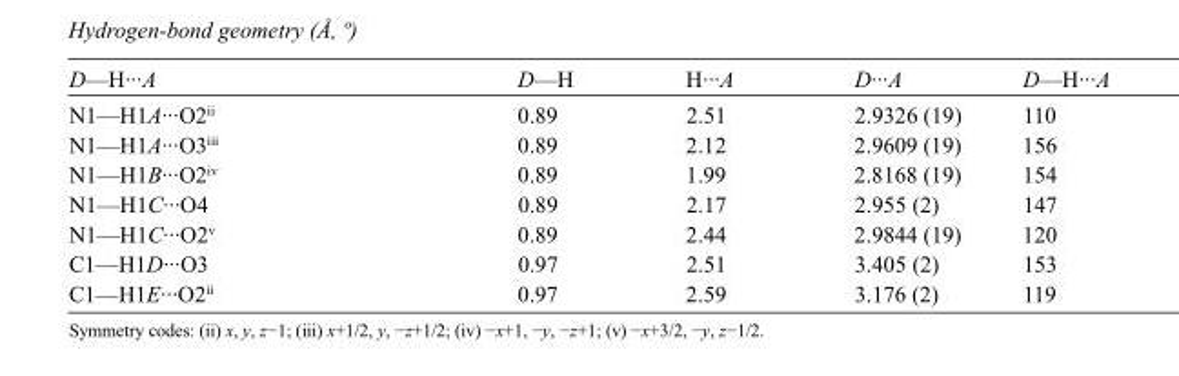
<table><tbody><tr><td>D—H···A</td><td>D—H</td><td>H···A</td><td>D···A</td><td>D—H···A</td></tr><tr><td>N1—H1A···O2<sup>ii</sup></td><td>0.89</td><td>2.51</td><td>2.9326 (19)</td><td>110</td></tr><tr><td>N1—H1A···O3<sup>iii</sup></td><td>0.89</td><td>2.12</td><td>2.9609 (19)</td><td>156</td></tr><tr><td>N1—H1B···O2<sup>iv</sup></td><td>0.89</td><td>1.99</td><td>2.8168 (19)</td><td>154</td></tr><tr><td>N1—H1C···O4</td><td>0.89</td><td>2.17</td><td>2.955 (2)</td><td>147</td></tr><tr><td>N1—H1C···O2<sup>v</sup></td><td>0.89</td><td>2.44</td><td>2.9844 (19)</td><td>120</td></tr><tr><td>C1—H1D···O3</td><td>0.97</td><td>2.51</td><td>3.405 (2)</td><td>153</td></tr><tr><td>C1—H1E···O2<sup>ii</sup></td><td>0.97</td><td>2.59</td><td>3.176 (2)</td><td>119</td></tr></tbody></table>